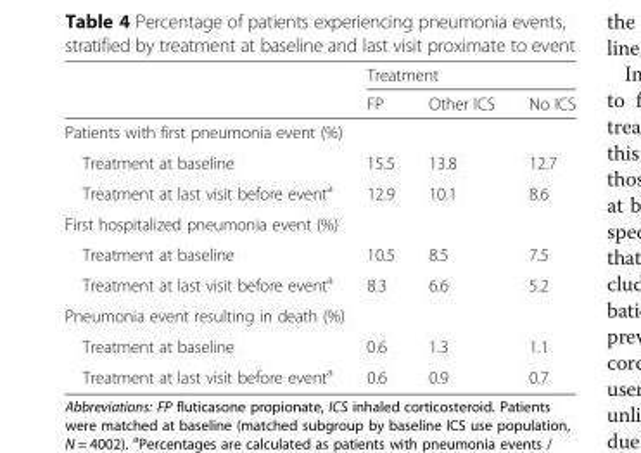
<table><thead><tr><td rowspan="2"></td><td colspan="3">Treatment</td></tr><tr><td>FP</td><td>Other ICS</td><td>No ICS</td></tr></thead><tbody><tr><td colspan="4">Patients with first pneumonia event (%)</td></tr><tr><td>Treatment at baseline</td><td>15.5</td><td>13.8</td><td>12.7</td></tr><tr><td>Treatment at last visit before event<sup>a</sup></td><td>12.9</td><td>10.1</td><td>8.6</td></tr><tr><td colspan="4">First hospitalized pneumonia event (%)</td></tr><tr><td>Treatment at baseline</td><td>10.5</td><td>8.5</td><td>7.5</td></tr><tr><td>Treatment at last visit before event<sup>a</sup></td><td>8.3</td><td>6.6</td><td>5.2</td></tr><tr><td colspan="4">Pneumonia event resulting in death (%)</td></tr><tr><td>Treatment at baseline</td><td>0.6</td><td>1.3</td><td>1.1</td></tr><tr><td>Treatment at last visit before event<sup>a</sup></td><td>0.6</td><td>0.9</td><td>0.7</td></tr></tbody></table>